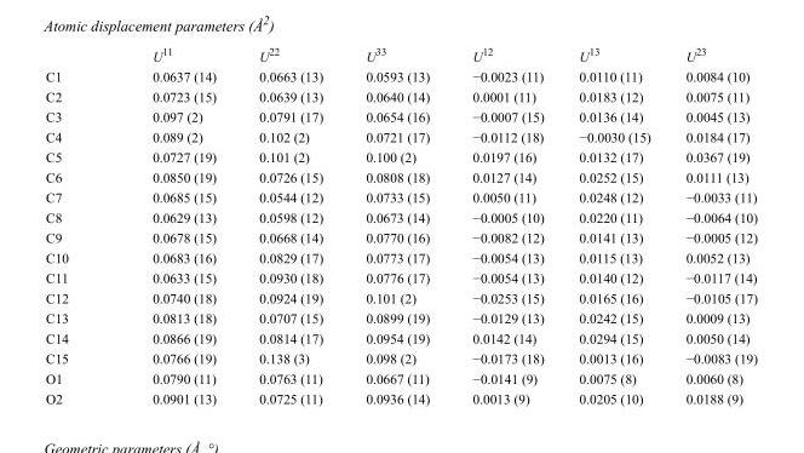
<table><thead><tr><td></td><td>U<sup>11</sup></td><td>U<sup>22</sup></td><td>U<sup>33</sup></td><td>U<sup>12</sup></td><td>U<sup>13</sup></td><td>U<sup>23</sup></td></tr></thead><tbody><tr><td>C1</td><td>0.0637 (14)</td><td>0.0663 (13)</td><td>0.0593 (13)</td><td>−0.0023 (11)</td><td>0.0110 (11)</td><td>0.0084 (10)</td></tr><tr><td>C2</td><td>0.0723 (15)</td><td>0.0639 (13)</td><td>0.0640 (14)</td><td>0.0001 (11)</td><td>0.0183 (12)</td><td>0.0075 (11)</td></tr><tr><td>C3</td><td>0.097 (2)</td><td>0.0791 (17)</td><td>0.0654 (16)</td><td>−0.0007 (15)</td><td>0.0136 (14)</td><td>0.0045 (13)</td></tr><tr><td>C4</td><td>0.089 (2)</td><td>0.102 (2)</td><td>0.0721 (17)</td><td>−0.0112 (18)</td><td>−0.0030 (15)</td><td>0.0184 (17)</td></tr><tr><td>C5</td><td>0.0727 (19)</td><td>0.101 (2)</td><td>0.100 (2)</td><td>0.0197 (16)</td><td>0.0132 (17)</td><td>0.0367 (19)</td></tr><tr><td>C6</td><td>0.0850 (19)</td><td>0.0726 (15)</td><td>0.0808 (18)</td><td>0.0127 (14)</td><td>0.0252 (15)</td><td>0.0111 (13)</td></tr><tr><td>C7</td><td>0.0685 (15)</td><td>0.0544 (12)</td><td>0.0733 (15)</td><td>0.0050 (11)</td><td>0.0248 (12)</td><td>−0.0033 (11)</td></tr><tr><td>C8</td><td>0.0629 (13)</td><td>0.0598 (12)</td><td>0.0673 (14)</td><td>−0.0005 (10)</td><td>0.0220 (11)</td><td>−0.0064 (10)</td></tr><tr><td>C9</td><td>0.0678 (15)</td><td>0.0668 (14)</td><td>0.0770 (16)</td><td>−0.0082 (12)</td><td>0.0141 (13)</td><td>−0.0005 (12)</td></tr><tr><td>C10</td><td>0.0683 (16)</td><td>0.0829 (17)</td><td>0.0773 (17)</td><td>−0.0054 (13)</td><td>0.0115 (13)</td><td>0.0052 (13)</td></tr><tr><td>C11</td><td>0.0633 (15)</td><td>0.0930 (18)</td><td>0.0776 (17)</td><td>−0.0054 (13)</td><td>0.0140 (12)</td><td>−0.0117 (14)</td></tr><tr><td>C12</td><td>0.0740 (18)</td><td>0.0924 (19)</td><td>0.101 (2)</td><td>−0.0253 (15)</td><td>0.0165 (16)</td><td>−0.0105 (17)</td></tr><tr><td>C13</td><td>0.0813 (18)</td><td>0.0707 (15)</td><td>0.0899 (19)</td><td>−0.0129 (13)</td><td>0.0242 (15)</td><td>0.0009 (13)</td></tr><tr><td>C14</td><td>0.0866 (19)</td><td>0.0814 (17)</td><td>0.0954 (19)</td><td>0.0142 (14)</td><td>0.0294 (15)</td><td>0.0050 (14)</td></tr><tr><td>C15</td><td>0.0766 (19)</td><td>0.138 (3)</td><td>0.098 (2)</td><td>−0.0173 (18)</td><td>0.0013 (16)</td><td>−0.0083 (19)</td></tr><tr><td>O1</td><td>0.0790 (11)</td><td>0.0763 (11)</td><td>0.0667 (11)</td><td>−0.0141 (9)</td><td>0.0075 (8)</td><td>0.0060 (8)</td></tr><tr><td>O2</td><td>0.0901 (13)</td><td>0.0725 (11)</td><td>0.0936 (14)</td><td>0.0013 (9)</td><td>0.0205 (10)</td><td>0.0188 (9)</td></tr></tbody></table>